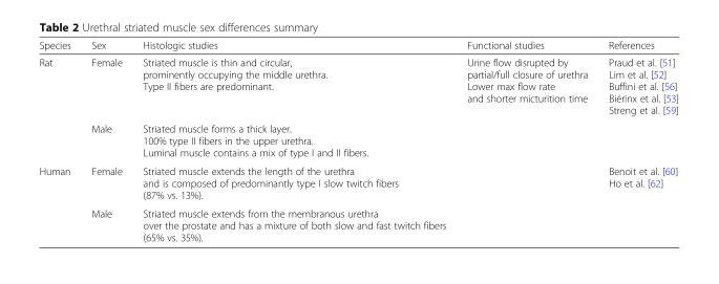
<table><thead><tr><td>Species</td><td>Sex</td><td>Histologic studies</td><td>Functional studies</td><td>References</td></tr></thead><tbody><tr><td rowspan="2">Rat</td><td>Female</td><td>Striated muscle is thin and circular, prominently occupying the middle urethra. Type II fibers are predominant.</td><td>Urine flow disrupted by partial/full closure of urethra Lower max flow rate and shorter micturition time</td><td>Praud et al. [51] Lim et al. [52] Buffini et al. [56] Biérinx et al. [53] Streng et al. [59]</td></tr><tr><td>Male</td><td>Striated muscle forms a thick layer. 100% type II fibers in the upper urethra. Luminal muscle contains a mix of type I and II fibers.</td><td></td><td></td></tr><tr><td rowspan="2">Human</td><td>Female</td><td>Striated muscle extends the length of the urethra and is composed of predominantly type I slow twitch fibers (87% vs. 13%).</td><td></td><td>Benoit et al. [60] Ho et al. [62]</td></tr><tr><td>Male</td><td>Striated muscle extends from the membranous urethra over the prostate and has a mixture of both slow and fast twitch fibers (65% vs. 35%).</td><td></td><td></td></tr></tbody></table>